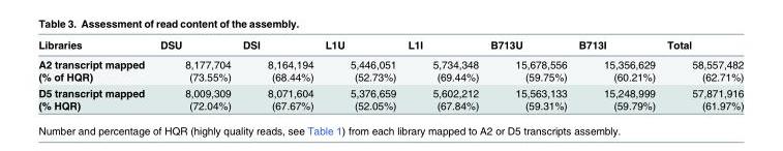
<table><thead><tr><td>Libraries</td><td>DSU</td><td>DSI</td><td>L1U</td><td>L1I</td><td>B713U</td><td>B713I</td><td>Total</td></tr></thead><tbody><tr><td>A2 transcript mapped (% of HQR)</td><td>8,177,704 (73.55%)</td><td>8,164,194 (68.44%)</td><td>5,446,051 (52.73%)</td><td>5,734,348 (69.44%)</td><td>15,678,556 (59.75%)</td><td>15,356,629 (60.21%)</td><td>58,557,482 (62.71%)</td></tr><tr><td>D5 transcript mapped (% HQR)</td><td>8,009,309 (72.04%)</td><td>8,071,604 (67.67%)</td><td>5,376,659 (52.05%)</td><td>5,602,212 (67.84%)</td><td>15,563,133 (59.31%)</td><td>15,248,999 (59.79%)</td><td>57,871,916 (61.97%)</td></tr></tbody></table>